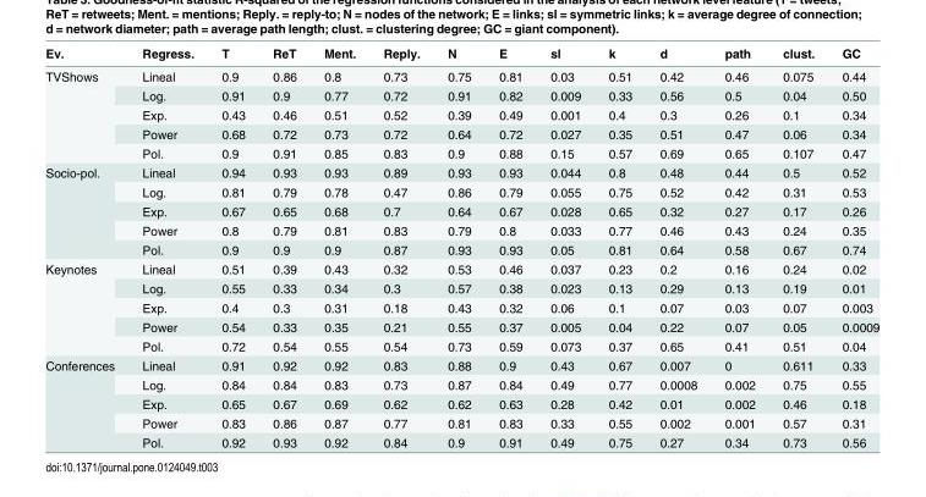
<table><thead><tr><td>Ev.</td><td>Regress.</td><td>T</td><td>ReT</td><td>Ment.</td><td>Reply.</td><td>N</td><td>E</td><td>sl</td><td>k</td><td>d</td><td>path</td><td>clust.</td><td>GC</td></tr></thead><tbody><tr><td rowspan="5">TVShows</td><td>Lineal</td><td>0.9</td><td>0.86</td><td>0.8</td><td>0.73</td><td>0.75</td><td>0.81</td><td>0.03</td><td>0.51</td><td>0.42</td><td>0.46</td><td>0.075</td><td>0.44</td></tr><tr><td>Log.</td><td>0.91</td><td>0.9</td><td>0.77</td><td>0.72</td><td>0.91</td><td>0.82</td><td>0.009</td><td>0.33</td><td>0.56</td><td>0.5</td><td>0.04</td><td>0.50</td></tr><tr><td>Exp.</td><td>0.43</td><td>0.46</td><td>0.51</td><td>0.52</td><td>0.39</td><td>0.49</td><td>0.001</td><td>0.4</td><td>0.3</td><td>0.26</td><td>0.1</td><td>0.34</td></tr><tr><td>Power</td><td>0.68</td><td>0.72</td><td>0.73</td><td>0.72</td><td>0.64</td><td>0.72</td><td>0.027</td><td>0.35</td><td>0.51</td><td>0.47</td><td>0.06</td><td>0.34</td></tr><tr><td>Pol.</td><td>0.9</td><td>0.91</td><td>0.85</td><td>0.83</td><td>0.9</td><td>0.88</td><td>0.15</td><td>0.57</td><td>0.69</td><td>0.65</td><td>0.107</td><td>0.47</td></tr><tr><td rowspan="5">Socio-pol.</td><td>Lineal</td><td>0.94</td><td>0.93</td><td>0.93</td><td>0.89</td><td>0.93</td><td>0.93</td><td>0.044</td><td>0.8</td><td>0.48</td><td>0.44</td><td>0.5</td><td>0.52</td></tr><tr><td>Log.</td><td>0.81</td><td>0.79</td><td>0.78</td><td>0.47</td><td>0.86</td><td>0.79</td><td>0.055</td><td>0.75</td><td>0.52</td><td>0.42</td><td>0.31</td><td>0.53</td></tr><tr><td>Exp.</td><td>0.67</td><td>0.65</td><td>0.68</td><td>0.7</td><td>0.64</td><td>0.67</td><td>0.028</td><td>0.65</td><td>0.32</td><td>0.27</td><td>0.17</td><td>0.26</td></tr><tr><td>Power</td><td>0.8</td><td>0.79</td><td>0.81</td><td>0.83</td><td>0.79</td><td>0.8</td><td>0.033</td><td>0.77</td><td>0.46</td><td>0.43</td><td>0.24</td><td>0.35</td></tr><tr><td>Pol.</td><td>0.9</td><td>0.9</td><td>0.9</td><td>0.87</td><td>0.93</td><td>0.93</td><td>0.05</td><td>0.81</td><td>0.64</td><td>0.58</td><td>0.67</td><td>0.74</td></tr><tr><td rowspan="5">Keynotes</td><td>Lineal</td><td>0.51</td><td>0.39</td><td>0.43</td><td>0.32</td><td>0.53</td><td>0.46</td><td>0.037</td><td>0.23</td><td>0.2</td><td>0.16</td><td>0.24</td><td>0.02</td></tr><tr><td>Log.</td><td>0.55</td><td>0.33</td><td>0.34</td><td>0.3</td><td>0.57</td><td>0.38</td><td>0.023</td><td>0.13</td><td>0.29</td><td>0.13</td><td>0.19</td><td>0.01</td></tr><tr><td>Exp.</td><td>0.4</td><td>0.3</td><td>0.31</td><td>0.18</td><td>0.43</td><td>0.32</td><td>0.06</td><td>0.1</td><td>0.07</td><td>0.03</td><td>0.07</td><td>0.003</td></tr><tr><td>Power</td><td>0.54</td><td>0.33</td><td>0.35</td><td>0.21</td><td>0.55</td><td>0.37</td><td>0.005</td><td>0.04</td><td>0.22</td><td>0.07</td><td>0.05</td><td>0.0009</td></tr><tr><td>Pol.</td><td>0.72</td><td>0.54</td><td>0.55</td><td>0.54</td><td>0.73</td><td>0.59</td><td>0.073</td><td>0.37</td><td>0.65</td><td>0.41</td><td>0.51</td><td>0.04</td></tr><tr><td rowspan="5">Conferences</td><td>Lineal</td><td>0.91</td><td>0.92</td><td>0.92</td><td>0.83</td><td>0.88</td><td>0.9</td><td>0.43</td><td>0.67</td><td>0.007</td><td>0</td><td>0.611</td><td>0.33</td></tr><tr><td>Log.</td><td>0.84</td><td>0.84</td><td>0.83</td><td>0.73</td><td>0.87</td><td>0.84</td><td>0.49</td><td>0.77</td><td>0.0008</td><td>0.002</td><td>0.75</td><td>0.55</td></tr><tr><td>Exp.</td><td>0.65</td><td>0.67</td><td>0.69</td><td>0.62</td><td>0.62</td><td>0.63</td><td>0.28</td><td>0.42</td><td>0.01</td><td>0.002</td><td>0.46</td><td>0.18</td></tr><tr><td>Power</td><td>0.83</td><td>0.86</td><td>0.87</td><td>0.77</td><td>0.81</td><td>0.83</td><td>0.33</td><td>0.55</td><td>0.002</td><td>0.001</td><td>0.57</td><td>0.31</td></tr><tr><td>Pol.</td><td>0.92</td><td>0.93</td><td>0.92</td><td>0.84</td><td>0.9</td><td>0.91</td><td>0.49</td><td>0.75</td><td>0.27</td><td>0.34</td><td>0.73</td><td>0.56</td></tr></tbody></table>